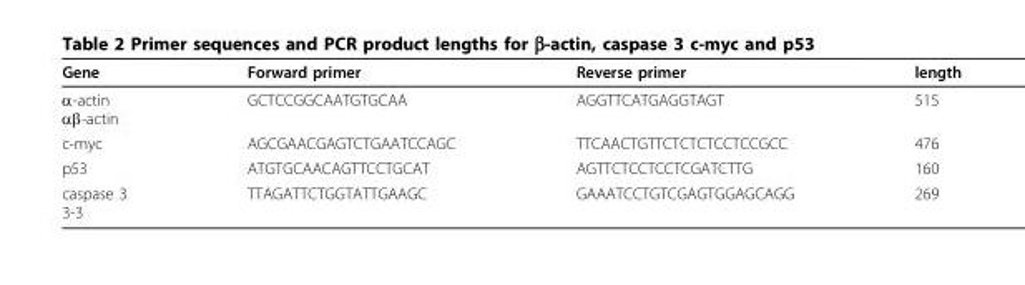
<table><thead><tr><td>Gene</td><td>Forward primer</td><td>Reverse primer</td><td>length</td></tr></thead><tbody><tr><td>α-actin αβ-actin</td><td>GCTCCGGCAATGTGCAA</td><td>AGGTTCATGAGGTAGT</td><td>515</td></tr><tr><td>c-myc</td><td>AGCGAACGAGTCTGAATCCAGC</td><td>TTCAACTGTTCTCTCTCCTCCGCC</td><td>476</td></tr><tr><td>p53</td><td>ATGTGCAACAGTTCCTGCAT</td><td>AGTTCTCCTCCTCGATCTTG</td><td>160</td></tr><tr><td>caspase 3 3-3</td><td>TTAGATTCTGGTATTGAAGC</td><td>GAAATCCTGTCGAGTGGAGCAGG</td><td>269</td></tr></tbody></table>